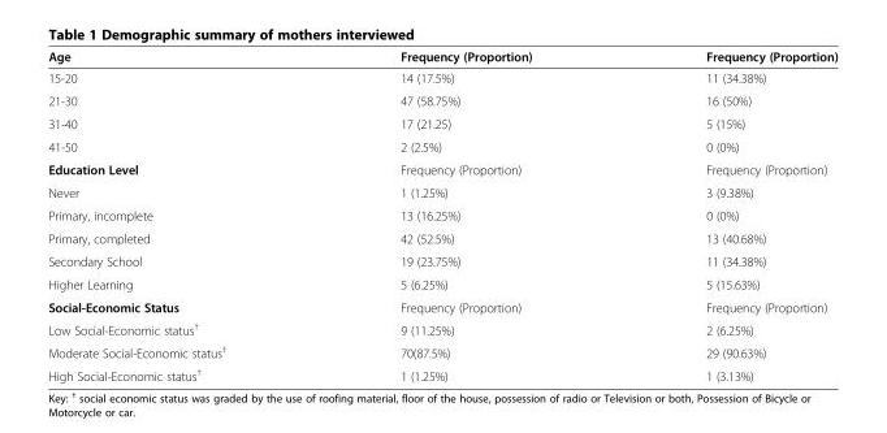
<table><thead><tr><td>Age</td><td>Frequency (Proportion)</td><td>Frequency (Proportion)</td></tr></thead><tbody><tr><td>15-20</td><td>14 (17.5%)</td><td>11 (34.38%)</td></tr><tr><td>21-30</td><td>47 (58.75%)</td><td>16 (50%)</td></tr><tr><td>31-40</td><td>17 (21.25)</td><td>5 (15%)</td></tr><tr><td>41-50</td><td>2 (2.5%)</td><td>0 (0%)</td></tr><tr><td>Education Level</td><td>Frequency (Proportion)</td><td>Frequency (Proportion)</td></tr><tr><td>Never</td><td>1 (1.25%)</td><td>3 (9.38%)</td></tr><tr><td>Primary, incomplete</td><td>13 (16.25%)</td><td>0 (0%)</td></tr><tr><td>Primary, completed</td><td>42 (52.5%)</td><td>13 (40.68%)</td></tr><tr><td>Secondary School</td><td>19 (23.75%)</td><td>11 (34.38%)</td></tr><tr><td>Higher Learning</td><td>5 (6.25%)</td><td>5 (15.63%)</td></tr><tr><td>Social-Economic Status</td><td>Frequency (Proportion)</td><td>Frequency (Proportion)</td></tr><tr><td>Low Social-Economic status<sup>†</sup></td><td>9 (11.25%)</td><td>2 (6.25%)</td></tr><tr><td>Moderate Social-Economic status<sup>†</sup></td><td>70(87.5%)</td><td>29 (90.63%)</td></tr><tr><td>High Social-Economic status<sup>†</sup></td><td>1 (1.25%)</td><td>1 (3.13%)</td></tr></tbody></table>